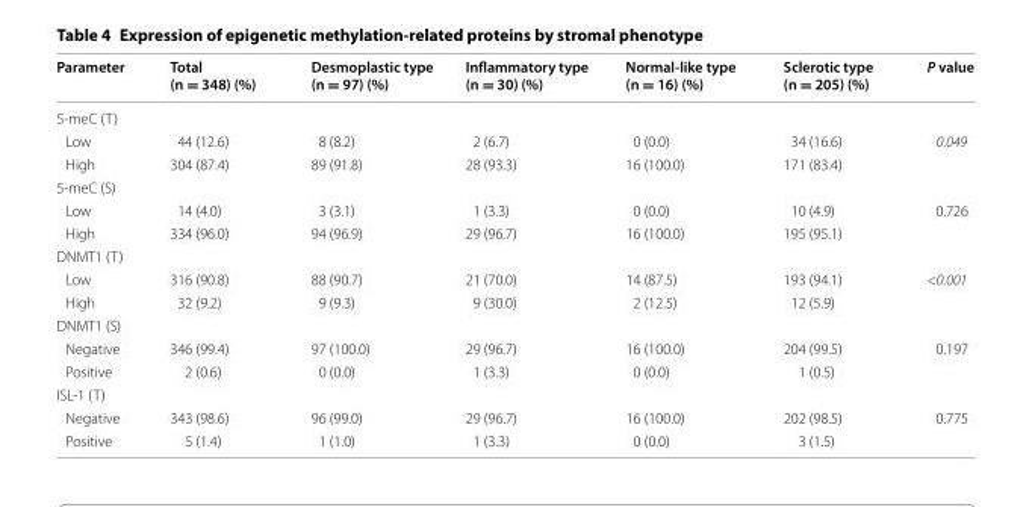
<table><thead><tr><td>Parameter</td><td>Total (n = 348) (%)</td><td>Desmoplastic type (n = 97) (%)</td><td>Inflammatory type (n = 30) (%)</td><td>Normal‑like type (n = 16) (%)</td><td>Sclerotic type (n = 205) (%)</td><td>P value</td></tr></thead><tbody><tr><td colspan="7">5-meC (T)</td></tr><tr><td>Low</td><td>44 (12.6)</td><td>8 (8.2)</td><td>2 (6.7)</td><td>0 (0.0)</td><td>34 (16.6)</td><td rowspan="2">0.049</td></tr><tr><td>High</td><td>304 (87.4)</td><td>89 (91.8)</td><td>28 (93.3)</td><td>16 (100.0)</td><td>171 (83.4)</td></tr><tr><td colspan="7">5-meC (S)</td></tr><tr><td>Low</td><td>14 (4.0)</td><td>3 (3.1)</td><td>1 (3.3)</td><td>0 (0.0)</td><td>10 (4.9)</td><td rowspan="2">0.726</td></tr><tr><td>High</td><td>334 (96.0)</td><td>94 (96.9)</td><td>29 (96.7)</td><td>16 (100.0)</td><td>195 (95.1)</td></tr><tr><td colspan="7">DNMT1 (T)</td></tr><tr><td>Low</td><td>316 (90.8)</td><td>88 (90.7)</td><td>21 (70.0)</td><td>14 (87.5)</td><td>193 (94.1)</td><td rowspan="2">&lt;0.001</td></tr><tr><td>High</td><td>32 (9.2)</td><td>9 (9.3)</td><td>9 (30.0)</td><td>2 (12.5)</td><td>12 (5.9)</td></tr><tr><td colspan="7">DNMT1 (S)</td></tr><tr><td>Negative</td><td>346 (99.4)</td><td>97 (100.0)</td><td>29 (96.7)</td><td>16 (100.0)</td><td>204 (99.5)</td><td rowspan="2">0.197</td></tr><tr><td>Positive</td><td>2 (0.6)</td><td>0 (0.0)</td><td>1 (3.3)</td><td>0 (0.0)</td><td>1 (0.5)</td></tr><tr><td colspan="7">ISL-1 (T)</td></tr><tr><td>Negative</td><td>343 (98.6)</td><td>96 (99.0)</td><td>29 (96.7)</td><td>16 (100.0)</td><td>202 (98.5)</td><td rowspan="2">0.775</td></tr><tr><td>Positive</td><td>5 (1.4)</td><td>1 (1.0)</td><td>1 (3.3)</td><td>0 (0.0)</td><td>3 (1.5)</td></tr></tbody></table>